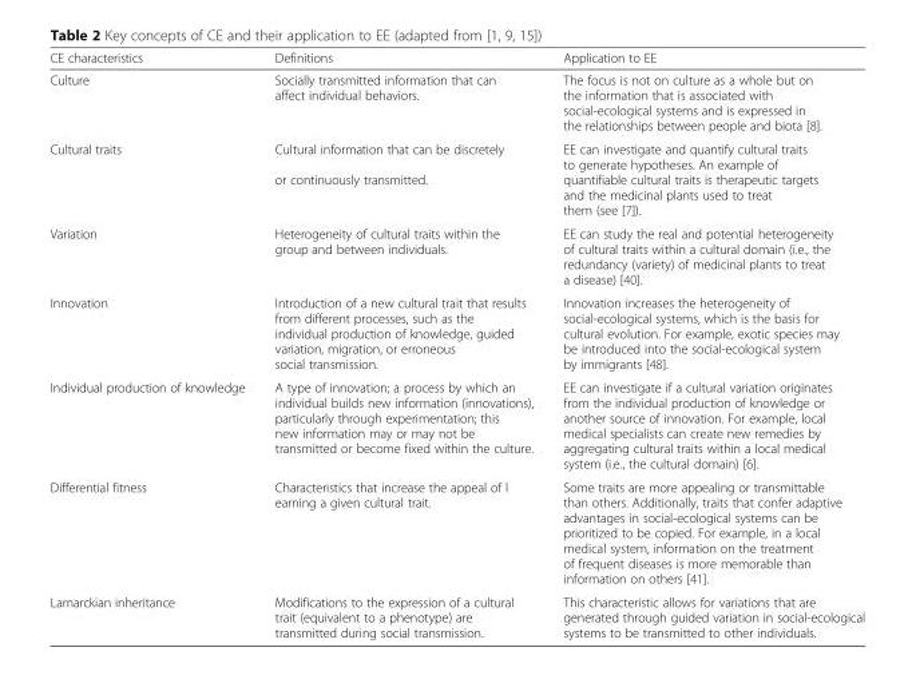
<table><thead><tr><td>CE characteristics</td><td>Definitions</td><td>Application to EE</td></tr></thead><tbody><tr><td>Culture</td><td>Socially transmitted information that can affect individual behaviors.</td><td>The focus is not on culture as a whole but on the information that is associated with social-ecological systems and is expressed in the relationships between people and biota [8].</td></tr><tr><td>Cultural traits</td><td>Cultural information that can be discretely or continuously transmitted.</td><td>EE can investigate and quantify cultural traits to generate hypotheses. An example of quantifiable cultural traits is therapeutic targets and the medicinal plants used to treat them (see [7]).</td></tr><tr><td>Variation</td><td>Heterogeneity of cultural traits within the group and between individuals.</td><td>EE can study the real and potential heterogeneity of cultural traits within a cultural domain (i.e., the redundancy (variety) of medicinal plants to treat a disease) [40].</td></tr><tr><td>Innovation</td><td>Introduction of a new cultural trait that results from different processes, such as the individual production of knowledge, guided variation, migration, or erroneous social transmission.</td><td>Innovation increases the heterogeneity of social-ecological systems, which is the basis for cultural evolution. For example, exotic species may be introduced into the social-ecological system by immigrants [48].</td></tr><tr><td>Individual production of knowledge</td><td>A type of innovation; a process by which an individual builds new information (innovations), particularly through experimentation; this new information may or may not be transmitted or become fixed within the culture.</td><td>EE can investigate if a cultural variation originates from the individual production of knowledge or another source of innovation. For example, local medical specialists can create new remedies by aggregating cultural traits within a local medical system (i.e., the cultural domain) [6].</td></tr><tr><td>Differential fitness</td><td>Characteristics that increase the appeal of l earning a given cultural trait.</td><td>Some traits are more appealing or transmittable than others. Additionally, traits that confer adaptive advantages in social-ecological systems can be prioritized to be copied. For example, in a local medical system, information on the treatment of frequent diseases is more memorable than information on others [41].</td></tr><tr><td>Lamarckian inheritance</td><td>Modifications to the expression of a cultural trait (equivalent to a phenotype) are transmitted during social transmission.</td><td>This characteristic allows for variations that are generated through guided variation in social-ecological systems to be transmitted to other individuals.</td></tr></tbody></table>